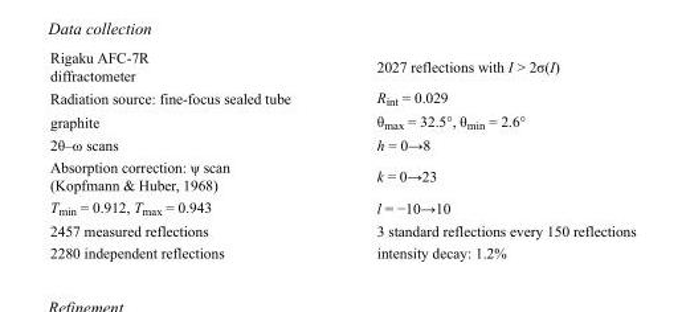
<table><tbody><tr><td>Rigaku AFC-7R diffractometer</td><td>2027 reflections with I &gt; 2σ(I)</td></tr><tr><td>Radiation source: fine-focus sealed tube</td><td>R<sub>int</sub> = 0.029</td></tr><tr><td>graphite</td><td>θ<sub>max</sub> = 32.5°, θ<sub>min</sub> = 2.6°</td></tr><tr><td>2θ–ω scans</td><td>h = 0→8</td></tr><tr><td>Absorption correction: ψ scan (Kopfmann &amp; Huber, 1968)</td><td>k = 0→23</td></tr><tr><td>T<sub>min</sub> = 0.912, T<sub>max</sub> = 0.943</td><td>l = −10→10</td></tr><tr><td>2457 measured reflections</td><td>3 standard reflections every 150 reflections</td></tr><tr><td>2280 independent reflections</td><td>intensity decay: 1.2%</td></tr></tbody></table>